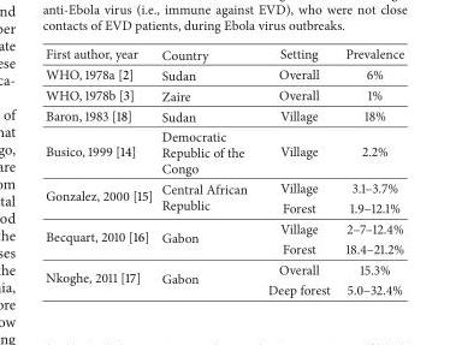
<table><thead><tr><td>First author, year</td><td>Country</td><td>Setting</td><td>Prevalence</td></tr></thead><tbody><tr><td>WHO, 1978a [2]</td><td>Sudan</td><td>Overall</td><td>6%</td></tr><tr><td>WHO, 1978b [3]</td><td>Zaire</td><td>Overall</td><td>1%</td></tr><tr><td>Baron, 1983 [18]</td><td>Sudan</td><td>Village</td><td>18%</td></tr><tr><td>Busico, 1999 [14]</td><td>Democratic Republic of the Congo</td><td>Village</td><td>2.2%</td></tr><tr><td rowspan="2">Gonzalez, 2000 [15]</td><td rowspan="2">Central African Republic</td><td>Village</td><td>3.1–3.7%</td></tr><tr><td>Forest</td><td>1.9–12.1%</td></tr><tr><td rowspan="2">Becquart, 2010 [16]</td><td rowspan="2">Gabon</td><td>Village</td><td>2–7–12.4%</td></tr><tr><td>Forest</td><td>18.4–21.2%</td></tr><tr><td rowspan="2">Nkoghe, 2011 [17]</td><td rowspan="2">Gabon</td><td>Overall</td><td>15.3%</td></tr><tr><td>Deep forest</td><td>5.0–32.4%</td></tr></tbody></table>